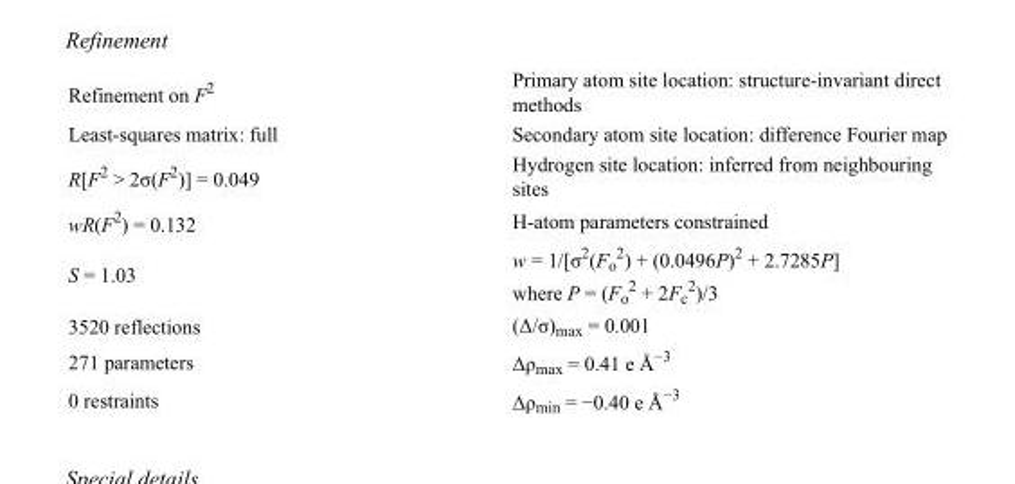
<table><tbody><tr><td>Refinement on F<sup>2</sup></td><td>Primary atom site location: structure-invariant direct methods</td></tr><tr><td>Least-squares matrix: full</td><td>Secondary atom site location: difference Fourier map</td></tr><tr><td>R[F<sup>2</sup> &gt; 2σ(F<sup>2</sup>)] = 0.049</td><td>Hydrogen site location: inferred from neighbouring sites</td></tr><tr><td>wR(F<sup>2</sup>) = 0.132</td><td>H-atom parameters constrained</td></tr><tr><td>S = 1.03</td><td>w = 1/[σ<sup>2</sup>(F<sub>o</sub> <sup>2</sup>) + (0.0496P)<sup>2</sup> + 2.7285P] where P = (F<sub>o</sub> <sup>2</sup> + 2F<sub>c</sub> <sup>2</sup>)/3</td></tr><tr><td>3520 reflections</td><td>(Δ/σ)<sub>max</sub> = 0.001</td></tr><tr><td>271 parameters</td><td>Δρ<sub>max</sub> = 0.41 e Å<sup>−3</sup></td></tr><tr><td>0 restraints</td><td>Δρ<sub>min</sub> = −0.40 e Å<sup>−3</sup></td></tr></tbody></table>